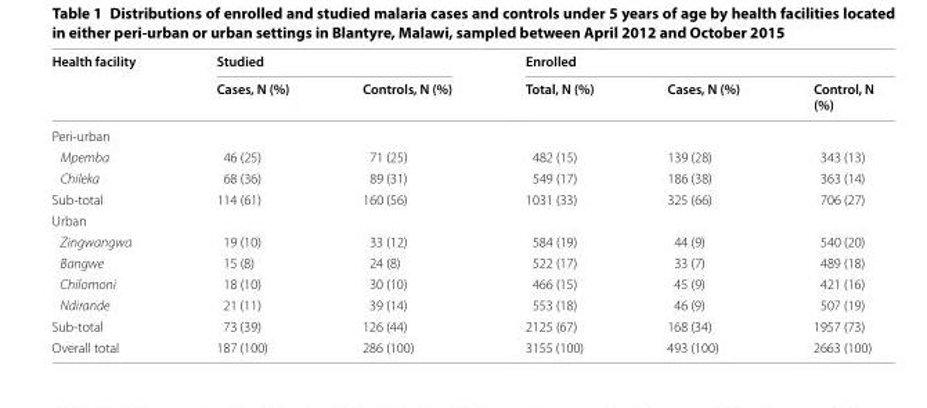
<table><thead><tr><td rowspan="2">Health facility</td><td colspan="2">Studied</td><td colspan="3">Enrolled</td></tr><tr><td>Cases, N (%)</td><td>Controls, N (%)</td><td>Total, N (%)</td><td>Cases, N (%)</td><td>Control, N (%)</td></tr></thead><tbody><tr><td colspan="6">Peri-urban</td></tr><tr><td>Mpemba</td><td>46 (25)</td><td>71 (25)</td><td>482 (15)</td><td>139 (28)</td><td>343 (13)</td></tr><tr><td>Chileka</td><td>68 (36)</td><td>89 (31)</td><td>549 (17)</td><td>186 (38)</td><td>363 (14)</td></tr><tr><td>Sub-total</td><td>114 (61)</td><td>160 (56)</td><td>1031 (33)</td><td>325 (66)</td><td>706 (27)</td></tr><tr><td colspan="6">Urban</td></tr><tr><td>Zingwangwa</td><td>19 (10)</td><td>33 (12)</td><td>584 (19)</td><td>44 (9)</td><td>540 (20)</td></tr><tr><td>Bangwe</td><td>15 (8)</td><td>24 (8)</td><td>522 (17)</td><td>33 (7)</td><td>489 (18)</td></tr><tr><td>Chilomoni</td><td>18 (10)</td><td>30 (10)</td><td>466 (15)</td><td>45 (9)</td><td>421 (16)</td></tr><tr><td>Ndirande</td><td>21 (11)</td><td>39 (14)</td><td>553 (18)</td><td>46 (9)</td><td>507 (19)</td></tr><tr><td>Sub-total</td><td>73 (39)</td><td>126 (44)</td><td>2125 (67)</td><td>168 (34)</td><td>1957 (73)</td></tr><tr><td>Overall total</td><td>187 (100)</td><td>286 (100)</td><td>3155 (100)</td><td>493 (100)</td><td>2663 (100)</td></tr></tbody></table>